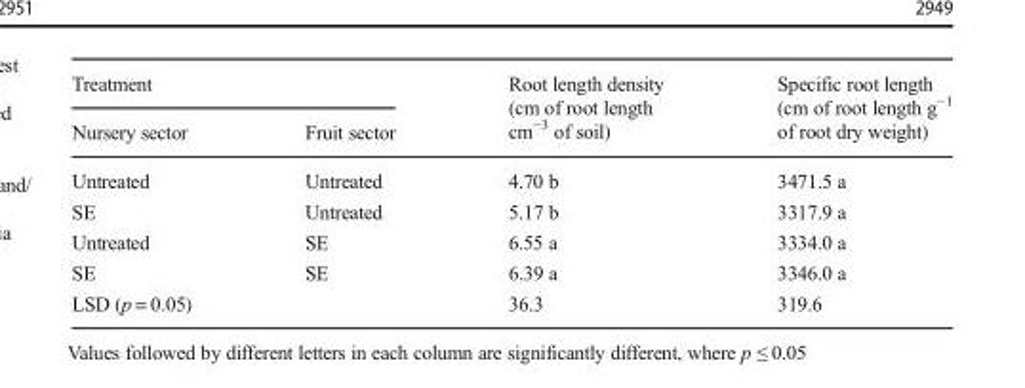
<table><thead><tr><td colspan="2">Treatment</td><td rowspan="2">Root length density (cm of root length cm<sup>−3</sup> of soil)</td><td rowspan="2">Specific root length (cm of root length g<sup>−1</sup> of root dry weight)</td></tr><tr><td>Nursery sector</td><td>Fruit sector</td></tr></thead><tbody><tr><td>Untreated</td><td>Untreated</td><td>4.70 b</td><td>3471.5 a</td></tr><tr><td>SE</td><td>Untreated</td><td>5.17 b</td><td>3317.9 a</td></tr><tr><td>Untreated</td><td>SE</td><td>6.55 a</td><td>3334.0 a</td></tr><tr><td>SE</td><td>SE</td><td>6.39 a</td><td>3346.0 a</td></tr><tr><td>LSD (p = 0.05)</td><td></td><td>36.3</td><td>319.6</td></tr></tbody></table>